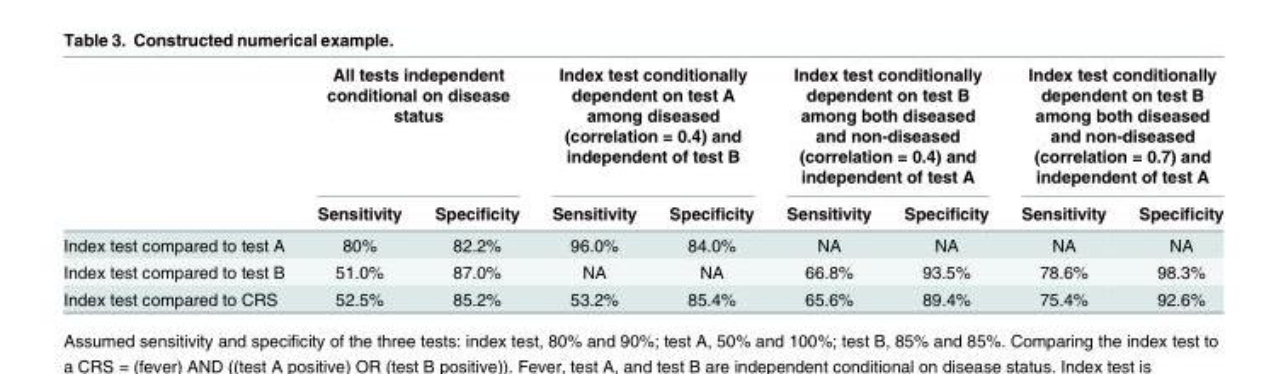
<table><thead><tr><td rowspan="2"></td><td colspan="2">All tests independent conditional on disease status</td><td colspan="2">Index test conditionally dependent on test A among diseased (correlation = 0.4) and independent of test B</td><td colspan="2">Index test conditionally dependent on test B among both diseased and non-diseased (correlation = 0.4) and independent of test A</td><td colspan="2">Index test conditionally dependent on test B among both diseased and non-diseased (correlation = 0.7) and independent of test A</td></tr><tr><td>Sensitivity</td><td>Specificity</td><td>Sensitivity</td><td>Specificity</td><td>Sensitivity</td><td>Specificity</td><td>Sensitivity</td><td>Specificity</td></tr></thead><tbody><tr><td>Index test compared to test A</td><td>80%</td><td>82.2%</td><td>96.0%</td><td>84.0%</td><td>NA</td><td>NA</td><td>NA</td><td>NA</td></tr><tr><td>Index test compared to test B</td><td>51.0%</td><td>87.0%</td><td>NA</td><td>NA</td><td>66.8%</td><td>93.5%</td><td>78.6%</td><td>98.3%</td></tr><tr><td>Index test compared to CRS</td><td>52.5%</td><td>85.2%</td><td>53.2%</td><td>85.4%</td><td>65.6%</td><td>89.4%</td><td>75.4%</td><td>92.6%</td></tr></tbody></table>